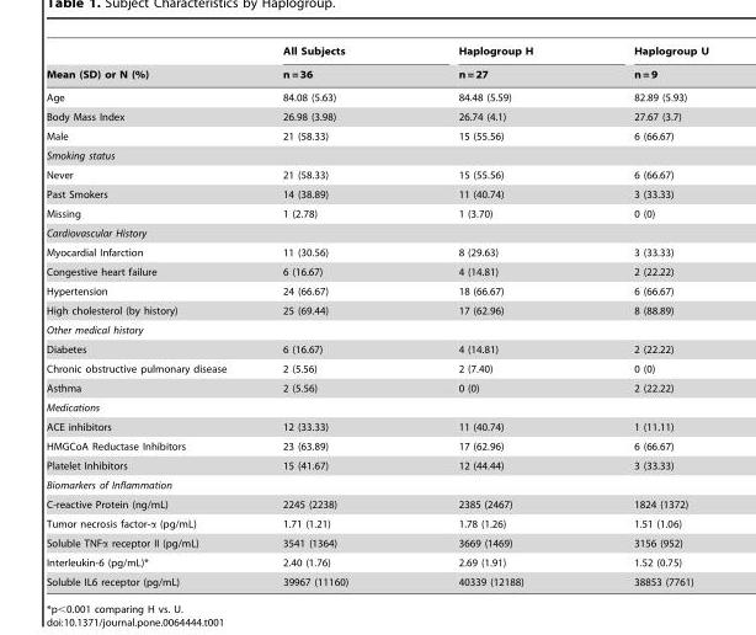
<table><thead><tr><td rowspan="2">Mean (SD) or N (%)</td><td rowspan="2">All Subjects n = 36</td><td rowspan="2">Haplogroup H n = 27</td><td rowspan="2">Haplogroup U n = 9</td></tr><tr></tr></thead><tbody><tr><td>Age</td><td>84.08 (5.63)</td><td>84.48 (5.59)</td><td>82.89 (5.93)</td></tr><tr><td>Body Mass Index</td><td>26.98 (3.98)</td><td>26.74 (4.1)</td><td>27.67 (3.7)</td></tr><tr><td>Male</td><td>21 (58.33)</td><td>15 (55.56)</td><td>6 (66.67)</td></tr><tr><td colspan="4">Smoking status</td></tr><tr><td>Never</td><td>21 (58.33)</td><td>15 (55.56)</td><td>6 (66.67)</td></tr><tr><td>Past Smokers</td><td>14 (38.89)</td><td>11 (40.74)</td><td>3 (33.33)</td></tr><tr><td>Missing</td><td>1 (2.78)</td><td>1 (3.70)</td><td>0 (0)</td></tr><tr><td colspan="4">Cardiovascular History</td></tr><tr><td>Myocardial Infarction</td><td>11 (30.56)</td><td>8 (29.63)</td><td>3 (33.33)</td></tr><tr><td>Congestive heart failure</td><td>6 (16.67)</td><td>4 (14.81)</td><td>2 (22.22)</td></tr><tr><td>Hypertension</td><td>24 (66.67)</td><td>18 (66.67)</td><td>6 (66.67)</td></tr><tr><td>High cholesterol (by history)</td><td>25 (69.44)</td><td>17 (62.96)</td><td>8 (88.89)</td></tr><tr><td colspan="4">Other medical history</td></tr><tr><td>Diabetes</td><td>6 (16.67)</td><td>4 (14.81)</td><td>2 (22.22)</td></tr><tr><td>Chronic obstructive pulmonary disease</td><td>2 (5.56)</td><td>2 (7.40)</td><td>0 (0)</td></tr><tr><td>Asthma</td><td>2 (5.56)</td><td>0 (0)</td><td>2 (22.22)</td></tr><tr><td colspan="4">Medications</td></tr><tr><td>ACE inhibitors</td><td>12 (33.33)</td><td>11 (40.74)</td><td>1 (11.11)</td></tr><tr><td>HMGCoA Reductase Inhibitors</td><td>23 (63.89)</td><td>17 (62.96)</td><td>6 (66.67)</td></tr><tr><td>Platelet Inhibitors</td><td>15 (41.67)</td><td>12 (44.44)</td><td>3 (33.33)</td></tr><tr><td colspan="4">Biomarkers of Inflammation</td></tr><tr><td>C-reactive Protein (ng/mL)</td><td>2245 (2238)</td><td>2385 (2467)</td><td>1824 (1372)</td></tr><tr><td>Tumor necrosis factor-α (pg/mL)</td><td>1.71 (1.21)</td><td>1.78 (1.26)</td><td>1.51 (1.06)</td></tr><tr><td>Soluble TNFα receptor II (pg/mL)</td><td>3541 (1364)</td><td>3669 (1469)</td><td>3156 (952)</td></tr><tr><td>Interleukin-6 (pg/mL)*</td><td>2.40 (1.76)</td><td>2.69 (1.91)</td><td>1.52 (0.75)</td></tr><tr><td>Soluble IL6 receptor (pg/mL)</td><td>39967 (11160)</td><td>40339 (12188)</td><td>38853 (7761)</td></tr></tbody></table>